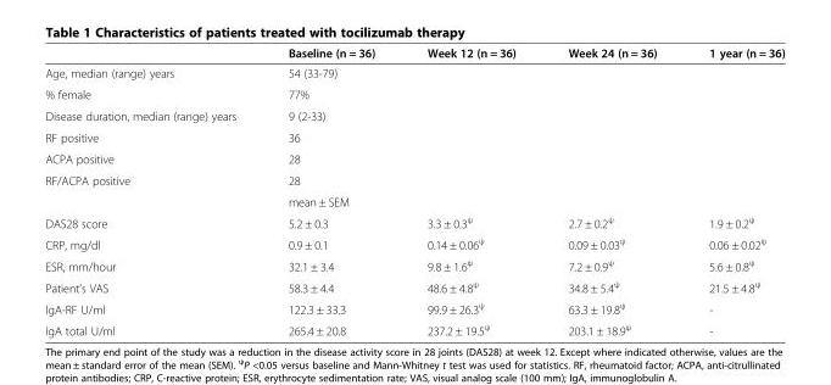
<table><thead><tr><td></td><td>Baseline (n = 36)</td><td>Week 12 (n = 36)</td><td>Week 24 (n = 36)</td><td>1 year (n = 36)</td></tr></thead><tbody><tr><td>Age, median (range) years</td><td>54 (33-79)</td><td></td><td></td><td></td></tr><tr><td>% female</td><td>77%</td><td></td><td></td><td></td></tr><tr><td>Disease duration, median (range) years</td><td>9 (2-33)</td><td></td><td></td><td></td></tr><tr><td>RF positive</td><td colspan="4">36</td></tr><tr><td>ACPA positive</td><td colspan="4">28</td></tr><tr><td rowspan="2">RF/ACPA positive</td><td colspan="3">28</td><td></td></tr><tr><td>mean ± SEM</td><td></td><td></td><td></td></tr><tr><td>DAS28 score</td><td>5.2 ± 0.3</td><td>3.3 ± 0.3<sup>ψ</sup></td><td>2.7 ± 0.2<sup>ψ</sup></td><td>1.9 ± 0.2<sup>ψ</sup></td></tr><tr><td>CRP, mg/dl</td><td>0.9 ± 0.1</td><td>0.14 ± 0.06<sup>ψ</sup></td><td>0.09 ± 0.03<sup>ψ</sup></td><td>0.06 ± 0.02<sup>ψ</sup></td></tr><tr><td>ESR, mm/hour</td><td>32.1 ± 3.4</td><td>9.8 ± 1.6<sup>ψ</sup></td><td>7.2 ± 0.9<sup>ψ</sup></td><td>5.6 ± 0.8<sup>ψ</sup></td></tr><tr><td>Patient’s VAS</td><td>58.3 ± 4.4</td><td>48.6 ± 4.8<sup>ψ</sup></td><td>34.8 ± 5.4<sup>ψ</sup></td><td>21.5 ± 4.8<sup>ψ</sup></td></tr><tr><td>IgA-RF U/ml</td><td>122.3 ± 33.3</td><td>99.9 ± 26.3<sup>ψ</sup></td><td>63.3 ± 19.8<sup>ψ</sup></td><td>-</td></tr><tr><td>IgA total U/ml</td><td>265.4 ± 20.8</td><td>237.2 ± 19.5<sup>ψ</sup></td><td>203.1 ± 18.9<sup>ψ</sup></td><td>-</td></tr></tbody></table>